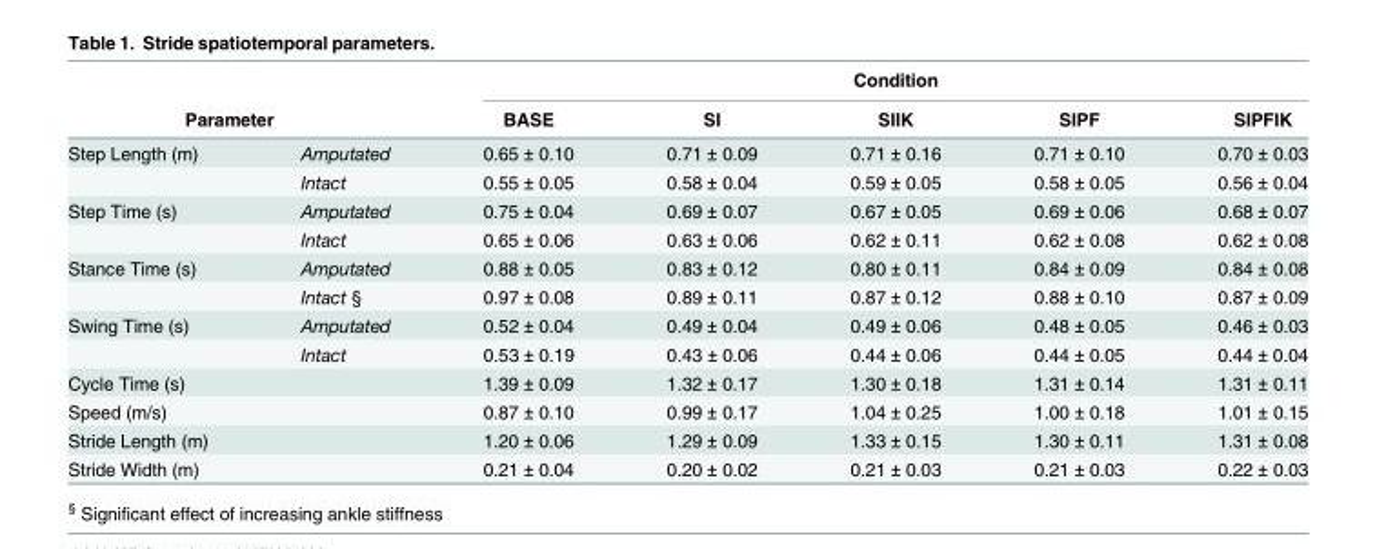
<table><thead><tr><td></td><td></td><td colspan="5">Condition</td></tr><tr><td colspan="2">Parameter</td><td>BASE</td><td>SI</td><td>SIIK</td><td>SIPF</td><td>SIPFIK</td></tr></thead><tbody><tr><td rowspan="2">Step Length (m)</td><td>Amputated</td><td>0.65 ± 0.10</td><td>0.71 ± 0.09</td><td>0.71 ± 0.16</td><td>0.71 ± 0.10</td><td>0.70 ± 0.03</td></tr><tr><td>Intact</td><td>0.55 ± 0.05</td><td>0.58 ± 0.04</td><td>0.59 ± 0.05</td><td>0.58 ± 0.05</td><td>0.56 ± 0.04</td></tr><tr><td rowspan="2">Step Time (s)</td><td>Amputated</td><td>0.75 ± 0.04</td><td>0.69 ± 0.07</td><td>0.67 ± 0.05</td><td>0.69 ± 0.06</td><td>0.68 ± 0.07</td></tr><tr><td>Intact</td><td>0.65 ± 0.06</td><td>0.63 ± 0.06</td><td>0.62 ± 0.11</td><td>0.62 ± 0.08</td><td>0.62 ± 0.08</td></tr><tr><td rowspan="2">Stance Time (s)</td><td>Amputated</td><td>0.88 ± 0.05</td><td>0.83 ± 0.12</td><td>0.80 ± 0.11</td><td>0.84 ± 0.09</td><td>0.84 ± 0.08</td></tr><tr><td>Intact §</td><td>0.97 ± 0.08</td><td>0.89 ± 0.11</td><td>0.87 ± 0.12</td><td>0.88 ± 0.10</td><td>0.87 ± 0.09</td></tr><tr><td rowspan="2">Swing Time (s)</td><td>Amputated</td><td>0.52 ± 0.04</td><td>0.49 ± 0.04</td><td>0.49 ± 0.06</td><td>0.48 ± 0.05</td><td>0.46 ± 0.03</td></tr><tr><td>Intact</td><td>0.53 ± 0.19</td><td>0.43 ± 0.06</td><td>0.44 ± 0.06</td><td>0.44 ± 0.05</td><td>0.44 ± 0.04</td></tr><tr><td>Cycle Time (s)</td><td></td><td>1.39 ± 0.09</td><td>1.32 ± 0.17</td><td>1.30 ± 0.18</td><td>1.31 ± 0.14</td><td>1.31 ± 0.11</td></tr><tr><td>Speed (m/s)</td><td></td><td>0.87 ± 0.10</td><td>0.99 ± 0.17</td><td>1.04 ± 0.25</td><td>1.00 ± 0.18</td><td>1.01 ± 0.15</td></tr><tr><td>Stride Length (m)</td><td></td><td>1.20 ± 0.06</td><td>1.29 ± 0.09</td><td>1.33 ± 0.15</td><td>1.30 ± 0.11</td><td>1.31 ± 0.08</td></tr><tr><td>Stride Width (m)</td><td></td><td>0.21 ± 0.04</td><td>0.20 ± 0.02</td><td>0.21 ± 0.03</td><td>0.21 ± 0.03</td><td>0.22 ± 0.03</td></tr></tbody></table>